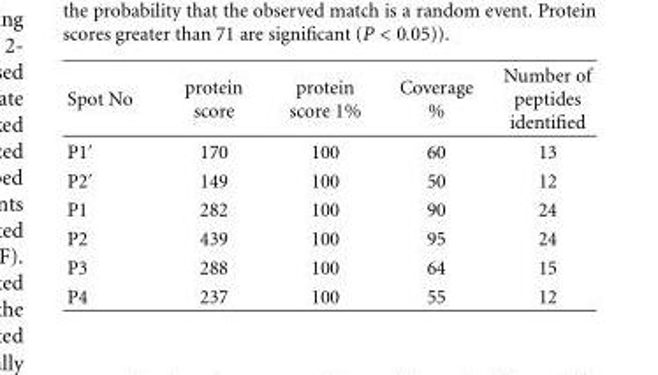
<table><thead><tr><td>Spot No</td><td>protein score</td><td>protein score 1%</td><td>Coverage %</td><td>Number of peptides identified</td></tr></thead><tbody><tr><td>P1′</td><td>170</td><td>100</td><td>60</td><td>13</td></tr><tr><td>P2′</td><td>149</td><td>100</td><td>50</td><td>12</td></tr><tr><td>P1</td><td>282</td><td>100</td><td>90</td><td>24</td></tr><tr><td>P2</td><td>439</td><td>100</td><td>95</td><td>24</td></tr><tr><td>P3</td><td>288</td><td>100</td><td>64</td><td>15</td></tr><tr><td>P4</td><td>237</td><td>100</td><td>55</td><td>12</td></tr></tbody></table>